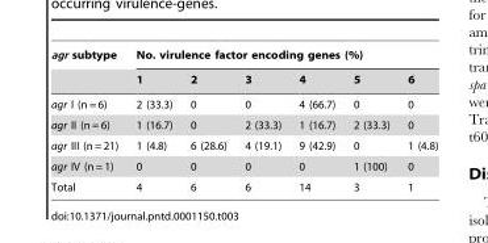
<table><thead><tr><td rowspan="2">agr subtype</td><td colspan="6">No. virulence factor encoding genes (%)</td></tr><tr><td>1</td><td>2</td><td>3</td><td>4</td><td>5</td><td>6</td></tr></thead><tbody><tr><td>agr I (n = 6)</td><td>2 (33.3)</td><td>0</td><td>0</td><td>4 (66.7)</td><td>0</td><td>0</td></tr><tr><td>agr II (n = 6)</td><td>1 (16.7)</td><td>0</td><td>2 (33.3)</td><td>1 (16.7)</td><td>2 (33.3)</td><td>0</td></tr><tr><td>agr III (n = 21)</td><td>1 (4.8)</td><td>6 (28.6)</td><td>4 (19.1)</td><td>9 (42.9)</td><td>0</td><td>1 (4.8)</td></tr><tr><td>agr IV (n = 1)</td><td>0</td><td>0</td><td>0</td><td>0</td><td>1 (100)</td><td>0</td></tr><tr><td>Total</td><td>4</td><td>6</td><td>6</td><td>14</td><td>3</td><td>1</td></tr></tbody></table>